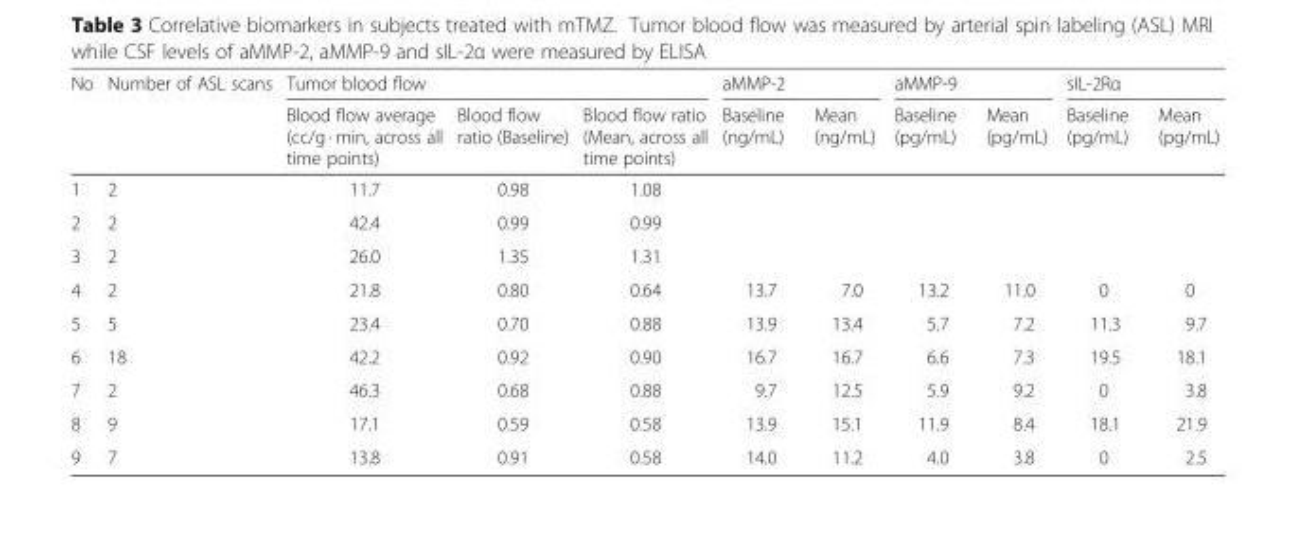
<table><thead><tr><td rowspan="2">No</td><td rowspan="2">Number of ASL scans</td><td colspan="3">Tumor blood flow</td><td colspan="2">aMMP-2</td><td colspan="2">aMMP-9</td><td colspan="2">sIL-2Rα</td></tr><tr><td>Blood flow average (cc/g · min, across all time points)</td><td>Blood flow ratio (Baseline)</td><td>Blood flow ratio (Mean, across all time points)</td><td>Baseline (ng/mL)</td><td>Mean (ng/mL)</td><td>Baseline (pg/mL)</td><td>Mean (pg/mL)</td><td>Baseline (pg/mL)</td><td>Mean (pg/mL)</td></tr></thead><tbody><tr><td>1</td><td>2</td><td>11.7</td><td>0.98</td><td>1.08</td><td></td><td></td><td></td><td></td><td></td><td></td></tr><tr><td>2</td><td>2</td><td>42.4</td><td>0.99</td><td>0.99</td><td></td><td></td><td></td><td></td><td></td><td></td></tr><tr><td>3</td><td>2</td><td>26.0</td><td>1.35</td><td>1.31</td><td></td><td></td><td></td><td></td><td></td><td></td></tr><tr><td>4</td><td>2</td><td>21.8</td><td>0.80</td><td>0.64</td><td>13.7</td><td>7.0</td><td>13.2</td><td>11.0</td><td>0</td><td>0</td></tr><tr><td>5</td><td>5</td><td>23.4</td><td>0.70</td><td>0.88</td><td>13.9</td><td>13.4</td><td>5.7</td><td>7.2</td><td>11.3</td><td>9.7</td></tr><tr><td>6</td><td>18</td><td>42.2</td><td>0.92</td><td>0.90</td><td>16.7</td><td>16.7</td><td>6.6</td><td>7.3</td><td>19.5</td><td>18.1</td></tr><tr><td>7</td><td>2</td><td>46.3</td><td>0.68</td><td>0.88</td><td>9.7</td><td>12.5</td><td>5.9</td><td>9.2</td><td>0</td><td>3.8</td></tr><tr><td>8</td><td>9</td><td>17.1</td><td>0.59</td><td>0.58</td><td>13.9</td><td>15.1</td><td>11.9</td><td>8.4</td><td>18.1</td><td>21.9</td></tr><tr><td>9</td><td>7</td><td>13.8</td><td>0.91</td><td>0.58</td><td>14.0</td><td>11.2</td><td>4.0</td><td>3.8</td><td>0</td><td>2.5</td></tr></tbody></table>